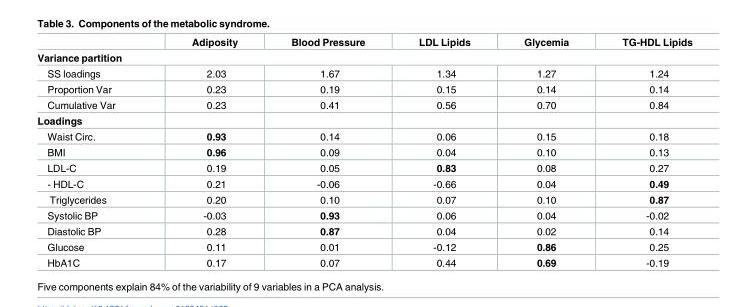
<table><thead><tr><td></td><td>Adiposity</td><td>Blood Pressure</td><td>LDL Lipids</td><td>Glycemia</td><td>TG-HDL Lipids</td></tr></thead><tbody><tr><td colspan="6">Variance partition</td></tr><tr><td>SS loadings</td><td>2.03</td><td>1.67</td><td>1.34</td><td>1.27</td><td>1.24</td></tr><tr><td>Proportion Var</td><td>0.23</td><td>0.19</td><td>0.15</td><td>0.14</td><td>0.14</td></tr><tr><td>Cumulative Var</td><td>0.23</td><td>0.41</td><td>0.56</td><td>0.70</td><td>0.84</td></tr><tr><td colspan="6">Loadings</td></tr><tr><td>Waist Circ.</td><td>0.93</td><td>0.14</td><td>0.06</td><td>0.15</td><td>0.18</td></tr><tr><td>BMI</td><td>0.96</td><td>0.09</td><td>0.04</td><td>0.10</td><td>0.13</td></tr><tr><td>LDL-C</td><td>0.19</td><td>0.05</td><td>0.83</td><td>0.08</td><td>0.27</td></tr><tr><td>- HDL-C</td><td>0.21</td><td>-0.06</td><td>-0.66</td><td>0.04</td><td>0.49</td></tr><tr><td>Triglycerides</td><td>0.20</td><td>0.10</td><td>0.07</td><td>0.10</td><td>0.87</td></tr><tr><td>Systolic BP</td><td>-0.03</td><td>0.93</td><td>0.06</td><td>0.04</td><td>-0.02</td></tr><tr><td>Diastolic BP</td><td>0.28</td><td>0.87</td><td>0.04</td><td>0.02</td><td>0.14</td></tr><tr><td>Glucose</td><td>0.11</td><td>0.01</td><td>-0.12</td><td>0.86</td><td>0.25</td></tr><tr><td>HbA1C</td><td>0.17</td><td>0.07</td><td>0.44</td><td>0.69</td><td>-0.19</td></tr></tbody></table>